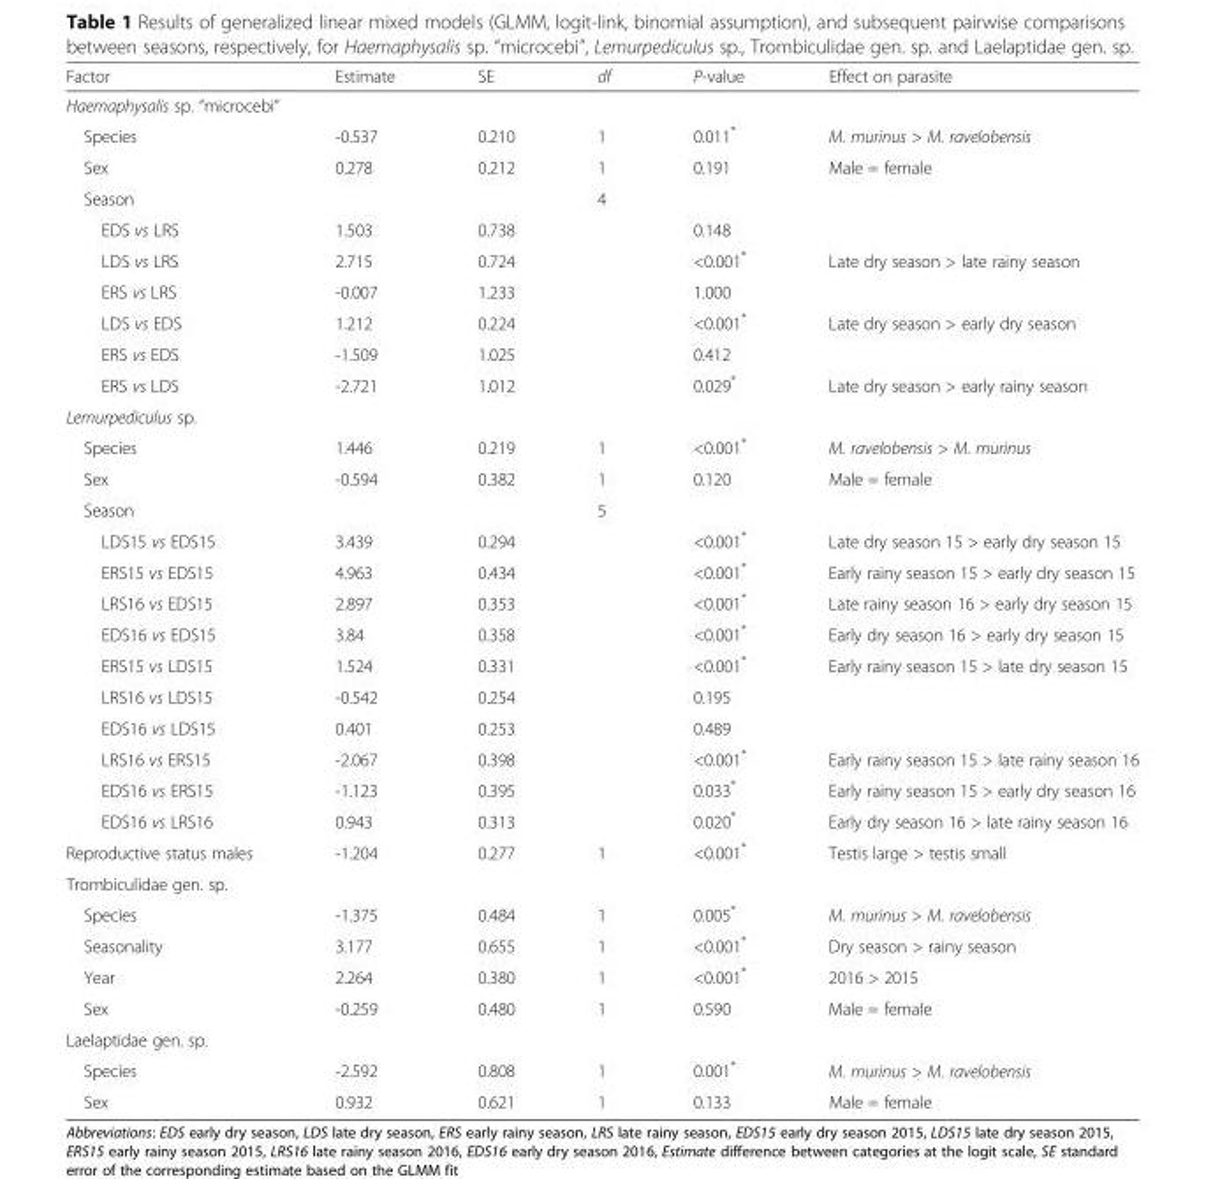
<table><thead><tr><td>Factor</td><td>Estimate</td><td>SE</td><td>df</td><td>P-value</td><td>Effect on parasite</td></tr></thead><tbody><tr><td colspan="6">Haemaphysalis sp. “microcebi”</td></tr><tr><td>Species</td><td>-0.537</td><td>0.210</td><td>1</td><td>0.011*</td><td>M. murinus &gt; M. ravelobensis</td></tr><tr><td>Sex</td><td>0.278</td><td>0.212</td><td>1</td><td>0.191</td><td>Male = female</td></tr><tr><td>Season</td><td></td><td></td><td>4</td><td></td><td></td></tr><tr><td>EDS vs LRS</td><td>1.503</td><td>0.738</td><td></td><td>0.148</td><td></td></tr><tr><td>LDS vs LRS</td><td>2.715</td><td>0.724</td><td></td><td>&lt;0.001*</td><td>Late dry season &gt; late rainy season</td></tr><tr><td>ERS vs LRS</td><td>-0.007</td><td>1.233</td><td></td><td>1.000</td><td></td></tr><tr><td>LDS vs EDS</td><td>1.212</td><td>0.224</td><td></td><td>&lt;0.001*</td><td>Late dry season &gt; early dry season</td></tr><tr><td>ERS vs EDS</td><td>-1.509</td><td>1.025</td><td></td><td>0.412</td><td></td></tr><tr><td>ERS vs LDS</td><td>-2.721</td><td>1.012</td><td></td><td>0.029*</td><td>Late dry season &gt; early rainy season</td></tr><tr><td colspan="6">Lemurpediculus sp.</td></tr><tr><td>Species</td><td>1.446</td><td>0.219</td><td>1</td><td>&lt;0.001*</td><td>M. ravelobensis &gt; M. murinus</td></tr><tr><td>Sex</td><td>-0.594</td><td>0.382</td><td>1</td><td>0.120</td><td>Male = female</td></tr><tr><td>Season</td><td></td><td></td><td>5</td><td></td><td></td></tr><tr><td>LDS15 vs EDS15</td><td>3.439</td><td>0.294</td><td></td><td>&lt;0.001*</td><td>Late dry season 15 &gt; early dry season 15</td></tr><tr><td>ERS15 vs EDS15</td><td>4.963</td><td>0.434</td><td></td><td>&lt;0.001*</td><td>Early rainy season 15 &gt; early dry season 15</td></tr><tr><td>LRS16 vs EDS15</td><td>2.897</td><td>0.353</td><td></td><td>&lt;0.001*</td><td>Late rainy season 16 &gt; early dry season 15</td></tr><tr><td>EDS16 vs EDS15</td><td>3.84</td><td>0.358</td><td></td><td>&lt;0.001*</td><td>Early dry season 16 &gt; early dry season 15</td></tr><tr><td>ERS15 vs LDS15</td><td>1.524</td><td>0.331</td><td></td><td>&lt;0.001*</td><td>Early rainy season 15 &gt; late dry season 15</td></tr><tr><td>LRS16 vs LDS15</td><td>-0.542</td><td>0.254</td><td></td><td>0.195</td><td></td></tr><tr><td>EDS16 vs LDS15</td><td>0.401</td><td>0.253</td><td></td><td>0.489</td><td></td></tr><tr><td>LRS16 vs ERS15</td><td>-2.067</td><td>0.398</td><td></td><td>&lt;0.001*</td><td>Early rainy season 15 &gt; late rainy season 16</td></tr><tr><td>EDS16 vs ERS15</td><td>-1.123</td><td>0.395</td><td></td><td>0.033*</td><td>Early rainy season 15 &gt; early dry season 16</td></tr><tr><td>EDS16 vs LRS16</td><td>0.943</td><td>0.313</td><td></td><td>0.020*</td><td>Early dry season 16 &gt; late rainy season 16</td></tr><tr><td>Reproductive status males</td><td>-1.204</td><td>0.277</td><td>1</td><td>&lt;0.001*</td><td>Testis large &gt; testis small</td></tr><tr><td colspan="6">Trombiculidae gen. sp.</td></tr><tr><td>Species</td><td>-1.375</td><td>0.484</td><td>1</td><td>0.005*</td><td>M. murinus &gt; M. ravelobensis</td></tr><tr><td>Seasonality</td><td>3.177</td><td>0.655</td><td>1</td><td>&lt;0.001*</td><td>Dry season &gt; rainy season</td></tr><tr><td>Year</td><td>2.264</td><td>0.380</td><td>1</td><td>&lt;0.001*</td><td>2016 &gt; 2015</td></tr><tr><td>Sex</td><td>-0.259</td><td>0.480</td><td>1</td><td>0.590</td><td>Male = female</td></tr><tr><td colspan="6">Laelaptidae gen. sp.</td></tr><tr><td>Species</td><td>-2.592</td><td>0.808</td><td>1</td><td>0.001*</td><td>M. murinus &gt; M. ravelobensis</td></tr><tr><td>Sex</td><td>0.932</td><td>0.621</td><td>1</td><td>0.133</td><td>Male = female</td></tr></tbody></table>